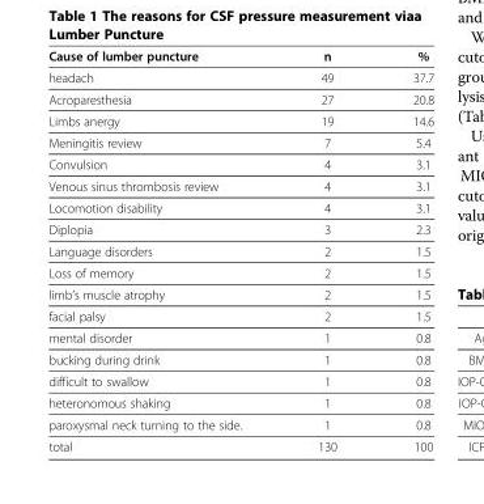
<table><thead><tr><td>Cause of lumber puncture</td><td>n</td><td>%</td></tr></thead><tbody><tr><td>headach</td><td>49</td><td>37.7</td></tr><tr><td>Acroparesthesia</td><td>27</td><td>20.8</td></tr><tr><td>Limbs anergy</td><td>19</td><td>14.6</td></tr><tr><td>Meningitis review</td><td>7</td><td>5.4</td></tr><tr><td>Convulsion</td><td>4</td><td>3.1</td></tr><tr><td>Venous sinus thrombosis review</td><td>4</td><td>3.1</td></tr><tr><td>Locomotion disability</td><td>4</td><td>3.1</td></tr><tr><td>Diplopia</td><td>3</td><td>2.3</td></tr><tr><td>Language disorders</td><td>2</td><td>1.5</td></tr><tr><td>Loss of memory</td><td>2</td><td>1.5</td></tr><tr><td>limb’s muscle atrophy</td><td>2</td><td>1.5</td></tr><tr><td>facial palsy</td><td>2</td><td>1.5</td></tr><tr><td>mental disorder</td><td>1</td><td>0.8</td></tr><tr><td>bucking during drink</td><td>1</td><td>0.8</td></tr><tr><td>difficult to swallow</td><td>1</td><td>0.8</td></tr><tr><td>heteronomous shaking</td><td>1</td><td>0.8</td></tr><tr><td>paroxysmal neck turning to the side.</td><td>1</td><td>0.8</td></tr><tr><td>total</td><td>130</td><td>100</td></tr></tbody></table>